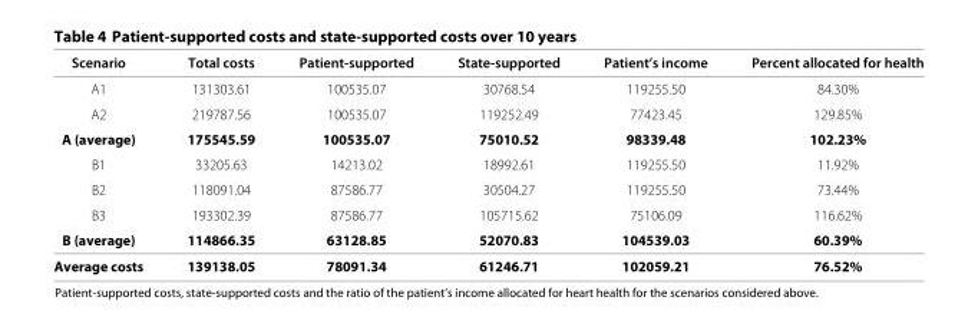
<table><thead><tr><td>Scenario</td><td>Total costs</td><td>Patient-supported</td><td>State-supported</td><td>Patient’s income</td><td>Percent allocated for health</td></tr></thead><tbody><tr><td>A1</td><td>131303.61</td><td>100535.07</td><td>30768.54</td><td>119255.50</td><td>84.30%</td></tr><tr><td>A2</td><td>219787.56</td><td>100535.07</td><td>119252.49</td><td>77423.45</td><td>129.85%</td></tr><tr><td>A (average)</td><td>175545.59</td><td>100535.07</td><td>75010.52</td><td>98339.48</td><td>102.23%</td></tr><tr><td>B1</td><td>33205.63</td><td>14213.02</td><td>18992.61</td><td>119255.50</td><td>11.92%</td></tr><tr><td>B2</td><td>118091.04</td><td>87586.77</td><td>30504.27</td><td>119255.50</td><td>73.44%</td></tr><tr><td>B3</td><td>193302.39</td><td>87586.77</td><td>105715.62</td><td>75106.09</td><td>116.62%</td></tr><tr><td>B (average)</td><td>114866.35</td><td>63128.85</td><td>52070.83</td><td>104539.03</td><td>60.39%</td></tr><tr><td>Average costs</td><td>139138.05</td><td>78091.34</td><td>61246.71</td><td>102059.21</td><td>76.52%</td></tr></tbody></table>